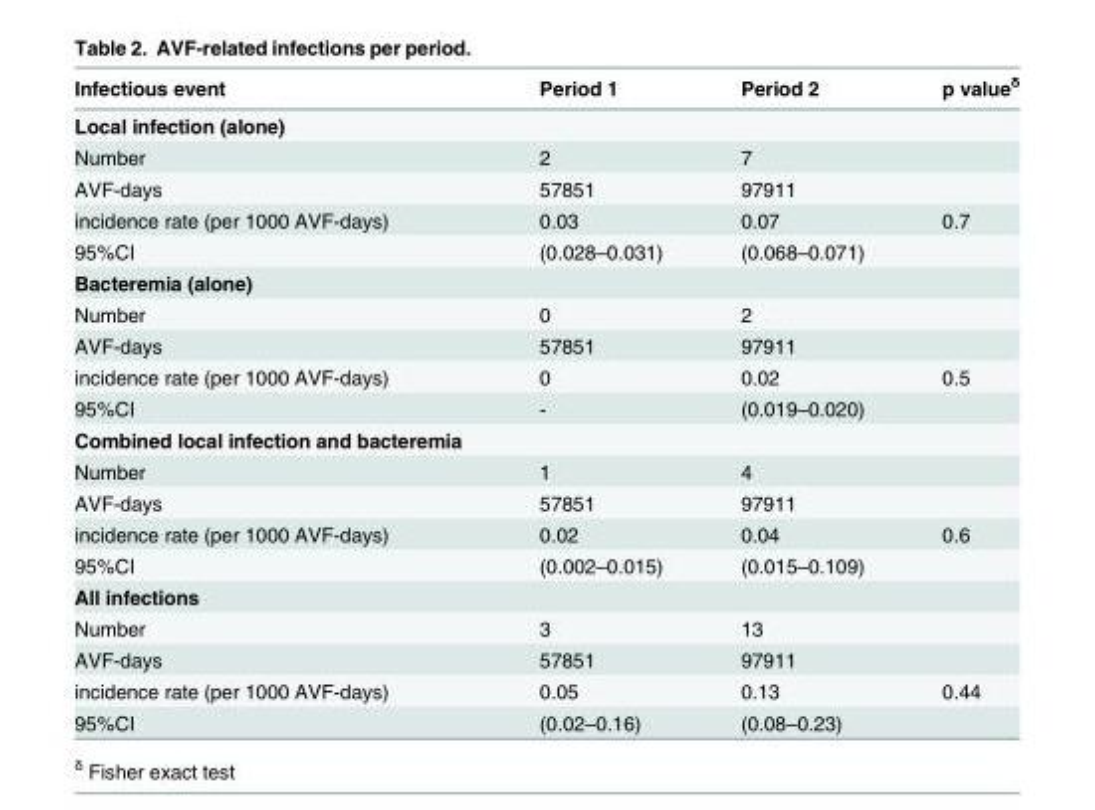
<table><thead><tr><td>Infectious event</td><td>Period 1</td><td>Period 2</td><td>p value<sup>δ</sup></td></tr></thead><tbody><tr><td colspan="4">Local infection (alone)</td></tr><tr><td>Number</td><td>2</td><td>7</td><td></td></tr><tr><td>AVF-days</td><td>57851</td><td>97911</td><td></td></tr><tr><td>incidence rate (per 1000 AVF-days)</td><td>0.03</td><td>0.07</td><td>0.7</td></tr><tr><td>95%CI</td><td>(0.028–0.031)</td><td>(0.068–0.071)</td><td></td></tr><tr><td colspan="4">Bacteremia (alone)</td></tr><tr><td>Number</td><td>0</td><td>2</td><td></td></tr><tr><td>AVF-days</td><td>57851</td><td>97911</td><td></td></tr><tr><td>incidence rate (per 1000 AVF-days)</td><td>0</td><td>0.02</td><td>0.5</td></tr><tr><td>95%CI</td><td>-</td><td>(0.019–0.020)</td><td></td></tr><tr><td colspan="4">Combined local infection and bacteremia</td></tr><tr><td>Number</td><td>1</td><td>4</td><td></td></tr><tr><td>AVF-days</td><td>57851</td><td>97911</td><td></td></tr><tr><td>incidence rate (per 1000 AVF-days)</td><td>0.02</td><td>0.04</td><td>0.6</td></tr><tr><td>95%CI</td><td>(0.002–0.015)</td><td>(0.015–0.109)</td><td></td></tr><tr><td colspan="4">All infections</td></tr><tr><td>Number</td><td>3</td><td>13</td><td></td></tr><tr><td>AVF-days</td><td>57851</td><td>97911</td><td></td></tr><tr><td>incidence rate (per 1000 AVF-days)</td><td>0.05</td><td>0.13</td><td>0.44</td></tr><tr><td>95%CI</td><td>(0.02–0.16)</td><td>(0.08–0.23)</td><td></td></tr></tbody></table>